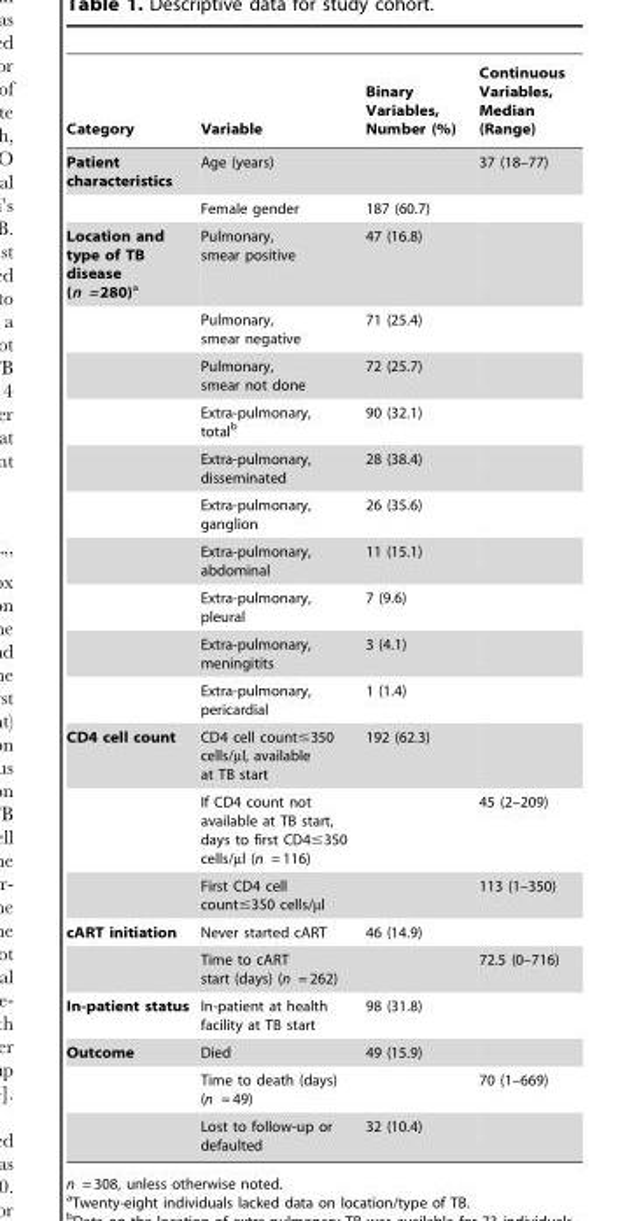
<table><thead><tr><td>Category</td><td>Variable</td><td>Binary Variables, Number (%)</td><td>Continuous Variables, Median (Range)</td></tr></thead><tbody><tr><td rowspan="2">Patient characteristics</td><td>Age (years)</td><td></td><td>37 (18–77)</td></tr><tr><td>Female gender</td><td>187 (60.7)</td><td></td></tr><tr><td rowspan="10">Location and type of TB disease (n = 280)a</td><td>Pulmonary, smear positive</td><td>47 (16.8)</td><td></td></tr><tr><td>Pulmonary, smear negative</td><td>71 (25.4)</td><td></td></tr><tr><td>Pulmonary, smear not done</td><td>72 (25.7)</td><td></td></tr><tr><td>Extra-pulmonary, total<sup>b</sup></td><td>90 (32.1)</td><td></td></tr><tr><td>Extra-pulmonary, disseminated</td><td>28 (38.4)</td><td></td></tr><tr><td>Extra-pulmonary, ganglion</td><td>26 (35.6)</td><td></td></tr><tr><td>Extra-pulmonary, abdominal</td><td>11 (15.1)</td><td></td></tr><tr><td>Extra-pulmonary, pleural</td><td>7 (9.6)</td><td></td></tr><tr><td>Extra-pulmonary, meningitits</td><td>3 (4.1)</td><td></td></tr><tr><td>Extra-pulmonary, pericardial</td><td>1 (1.4)</td><td></td></tr><tr><td rowspan="3">CD4 cell count</td><td>CD4 cell count≤350 cells/µl, available at TB start</td><td>192 (62.3)</td><td></td></tr><tr><td>If CD4 count not available at TB start, days to first CD4≤350 cells/µl (n = 116)</td><td></td><td>45 (2–209)</td></tr><tr><td>First CD4 cell count≤350 cells/µl</td><td></td><td>113 (1–350)</td></tr><tr><td rowspan="2">cART initiation</td><td>Never started cART</td><td>46 (14.9)</td><td></td></tr><tr><td>Time to cART start (days) (n = 262)</td><td></td><td>72.5 (0–716)</td></tr><tr><td>In-patient status</td><td>In-patient at health facility at TB start</td><td>98 (31.8)</td><td></td></tr><tr><td rowspan="3">Outcome</td><td>Died</td><td>49 (15.9)</td><td></td></tr><tr><td>Time to death (days) (n = 49)</td><td></td><td>70 (1–669)</td></tr><tr><td>Lost to follow-up or defaulted</td><td>32 (10.4)</td><td></td></tr></tbody></table>